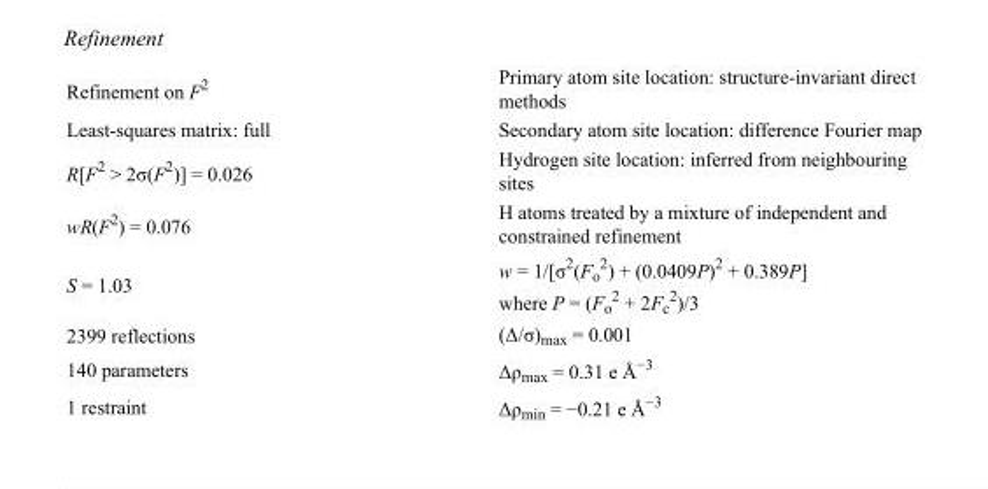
<table><tbody><tr><td>Refinement on F<sup>2</sup></td><td>Primary atom site location: structure-invariant direct methods</td></tr><tr><td>Least-squares matrix: full</td><td>Secondary atom site location: difference Fourier map</td></tr><tr><td>R[F<sup>2</sup> &gt; 2σ(F<sup>2</sup>)] = 0.026</td><td>Hydrogen site location: inferred from neighbouring sites</td></tr><tr><td>wR(F<sup>2</sup>) = 0.076</td><td>H atoms treated by a mixture of independent and constrained refinement</td></tr><tr><td>S = 1.03</td><td>w = 1/[σ<sup>2</sup>(F<sub>o</sub> <sup>2</sup>) + (0.0409P)<sup>2</sup> + 0.389P] where P = (F<sub>o</sub> <sup>2</sup> + 2F<sub>c</sub> <sup>2</sup>)/3</td></tr><tr><td>2399 reflections</td><td>(Δ/σ)<sub>max</sub> = 0.001</td></tr><tr><td>140 parameters</td><td>Δρ<sub>max</sub> = 0.31 e Å<sup>−3</sup></td></tr><tr><td>1 restraint</td><td>Δρ<sub>min</sub> = −0.21 e Å<sup>−3</sup></td></tr></tbody></table>